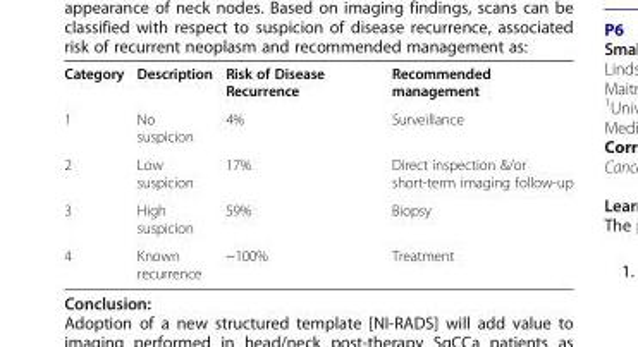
<table><tbody><tr><td>Category</td><td>Description</td><td>Risk of Disease Recurrence</td><td>Recommended management</td></tr><tr><td>1</td><td>No suspicion</td><td>4%</td><td>Surveillance</td></tr><tr><td>2</td><td>Low suspicion</td><td>17%</td><td>Direct inspection &amp;/or short-term imaging follow-up</td></tr><tr><td>3</td><td>High suspicion</td><td>59%</td><td>Biopsy</td></tr><tr><td>4</td><td>Known recurrence</td><td>~100%</td><td>Treatment</td></tr></tbody></table>